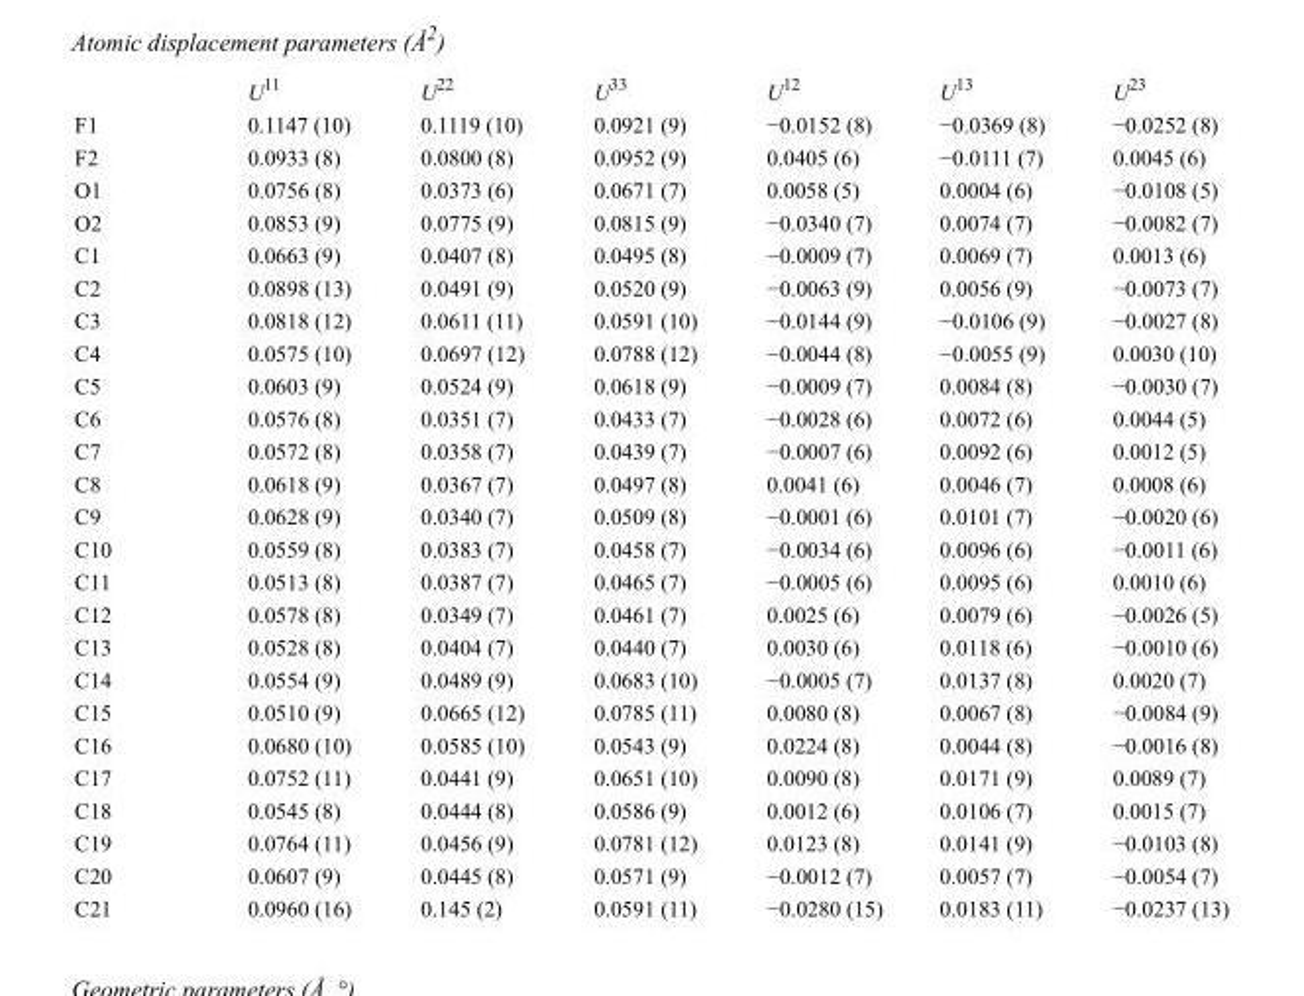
<table><thead><tr><td></td><td>U<sup>11</sup></td><td>U<sup>22</sup></td><td>U<sup>33</sup></td><td>U<sup>12</sup></td><td>U<sup>13</sup></td><td>U<sup>23</sup></td></tr></thead><tbody><tr><td>F1</td><td>0.1147 (10)</td><td>0.1119 (10)</td><td>0.0921 (9)</td><td>−0.0152 (8)</td><td>−0.0369 (8)</td><td>−0.0252 (8)</td></tr><tr><td>F2</td><td>0.0933 (8)</td><td>0.0800 (8)</td><td>0.0952 (9)</td><td>0.0405 (6)</td><td>−0.0111 (7)</td><td>0.0045 (6)</td></tr><tr><td>O1</td><td>0.0756 (8)</td><td>0.0373 (6)</td><td>0.0671 (7)</td><td>0.0058 (5)</td><td>0.0004 (6)</td><td>−0.0108 (5)</td></tr><tr><td>O2</td><td>0.0853 (9)</td><td>0.0775 (9)</td><td>0.0815 (9)</td><td>−0.0340 (7)</td><td>0.0074 (7)</td><td>−0.0082 (7)</td></tr><tr><td>C1</td><td>0.0663 (9)</td><td>0.0407 (8)</td><td>0.0495 (8)</td><td>−0.0009 (7)</td><td>0.0069 (7)</td><td>0.0013 (6)</td></tr><tr><td>C2</td><td>0.0898 (13)</td><td>0.0491 (9)</td><td>0.0520 (9)</td><td>−0.0063 (9)</td><td>0.0056 (9)</td><td>−0.0073 (7)</td></tr><tr><td>C3</td><td>0.0818 (12)</td><td>0.0611 (11)</td><td>0.0591 (10)</td><td>−0.0144 (9)</td><td>−0.0106 (9)</td><td>−0.0027 (8)</td></tr><tr><td>C4</td><td>0.0575 (10)</td><td>0.0697 (12)</td><td>0.0788 (12)</td><td>−0.0044 (8)</td><td>−0.0055 (9)</td><td>0.0030 (10)</td></tr><tr><td>C5</td><td>0.0603 (9)</td><td>0.0524 (9)</td><td>0.0618 (9)</td><td>−0.0009 (7)</td><td>0.0084 (8)</td><td>−0.0030 (7)</td></tr><tr><td>C6</td><td>0.0576 (8)</td><td>0.0351 (7)</td><td>0.0433 (7)</td><td>−0.0028 (6)</td><td>0.0072 (6)</td><td>0.0044 (5)</td></tr><tr><td>C7</td><td>0.0572 (8)</td><td>0.0358 (7)</td><td>0.0439 (7)</td><td>−0.0007 (6)</td><td>0.0092 (6)</td><td>0.0012 (5)</td></tr><tr><td>C8</td><td>0.0618 (9)</td><td>0.0367 (7)</td><td>0.0497 (8)</td><td>0.0041 (6)</td><td>0.0046 (7)</td><td>0.0008 (6)</td></tr><tr><td>C9</td><td>0.0628 (9)</td><td>0.0340 (7)</td><td>0.0509 (8)</td><td>−0.0001 (6)</td><td>0.0101 (7)</td><td>−0.0020 (6)</td></tr><tr><td>C10</td><td>0.0559 (8)</td><td>0.0383 (7)</td><td>0.0458 (7)</td><td>−0.0034 (6)</td><td>0.0096 (6)</td><td>−0.0011 (6)</td></tr><tr><td>C11</td><td>0.0513 (8)</td><td>0.0387 (7)</td><td>0.0465 (7)</td><td>−0.0005 (6)</td><td>0.0095 (6)</td><td>0.0010 (6)</td></tr><tr><td>C12</td><td>0.0578 (8)</td><td>0.0349 (7)</td><td>0.0461 (7)</td><td>0.0025 (6)</td><td>0.0079 (6)</td><td>−0.0026 (5)</td></tr><tr><td>C13</td><td>0.0528 (8)</td><td>0.0404 (7)</td><td>0.0440 (7)</td><td>0.0030 (6)</td><td>0.0118 (6)</td><td>−0.0010 (6)</td></tr><tr><td>C14</td><td>0.0554 (9)</td><td>0.0489 (9)</td><td>0.0683 (10)</td><td>−0.0005 (7)</td><td>0.0137 (8)</td><td>0.0020 (7)</td></tr><tr><td>C15</td><td>0.0510 (9)</td><td>0.0665 (12)</td><td>0.0785 (11)</td><td>0.0080 (8)</td><td>0.0067 (8)</td><td>−0.0084 (9)</td></tr><tr><td>C16</td><td>0.0680 (10)</td><td>0.0585 (10)</td><td>0.0543 (9)</td><td>0.0224 (8)</td><td>0.0044 (8)</td><td>−0.0016 (8)</td></tr><tr><td>C17</td><td>0.0752 (11)</td><td>0.0441 (9)</td><td>0.0651 (10)</td><td>0.0090 (8)</td><td>0.0171 (9)</td><td>0.0089 (7)</td></tr><tr><td>C18</td><td>0.0545 (8)</td><td>0.0444 (8)</td><td>0.0586 (9)</td><td>0.0012 (6)</td><td>0.0106 (7)</td><td>0.0015 (7)</td></tr><tr><td>C19</td><td>0.0764 (11)</td><td>0.0456 (9)</td><td>0.0781 (12)</td><td>0.0123 (8)</td><td>0.0141 (9)</td><td>−0.0103 (8)</td></tr><tr><td>C20</td><td>0.0607 (9)</td><td>0.0445 (8)</td><td>0.0571 (9)</td><td>−0.0012 (7)</td><td>0.0057 (7)</td><td>−0.0054 (7)</td></tr><tr><td>C21</td><td>0.0960 (16)</td><td>0.145 (2)</td><td>0.0591 (11)</td><td>−0.0280 (15)</td><td>0.0183 (11)</td><td>−0.0237 (13)</td></tr></tbody></table>